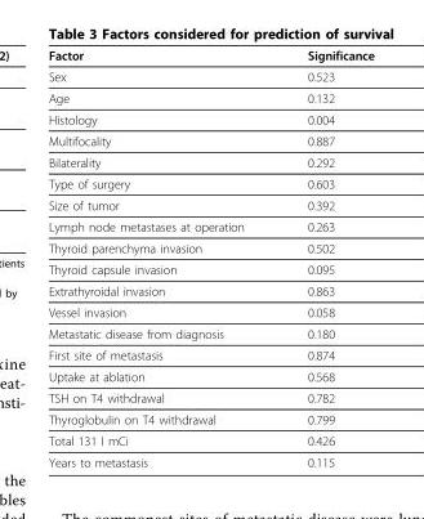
<table><thead><tr><td>Factor</td><td>Significance</td></tr></thead><tbody><tr><td>Sex</td><td>0.523</td></tr><tr><td>Age</td><td>0.132</td></tr><tr><td>Histology</td><td>0.004</td></tr><tr><td>Multifocality</td><td>0.887</td></tr><tr><td>Bilaterality</td><td>0.292</td></tr><tr><td>Type of surgery</td><td>0.603</td></tr><tr><td>Size of tumor</td><td>0.392</td></tr><tr><td>Lymph node metastases at operation</td><td>0.263</td></tr><tr><td>Thyroid parenchyma invasion</td><td>0.502</td></tr><tr><td>Thyroid capsule invasion</td><td>0.095</td></tr><tr><td>Extrathyroidal invasion</td><td>0.863</td></tr><tr><td>Vessel invasion</td><td>0.058</td></tr><tr><td>Metastatic disease from diagnosis</td><td>0.180</td></tr><tr><td>First site of metastasis</td><td>0.874</td></tr><tr><td>Uptake at ablation</td><td>0.568</td></tr><tr><td>TSH on T4 withdrawal</td><td>0.782</td></tr><tr><td>Thyroglobulin on T4 withdrawal</td><td>0.799</td></tr><tr><td>Total 131 I mCi</td><td>0.426</td></tr><tr><td>Years to metastasis</td><td>0.115</td></tr></tbody></table>